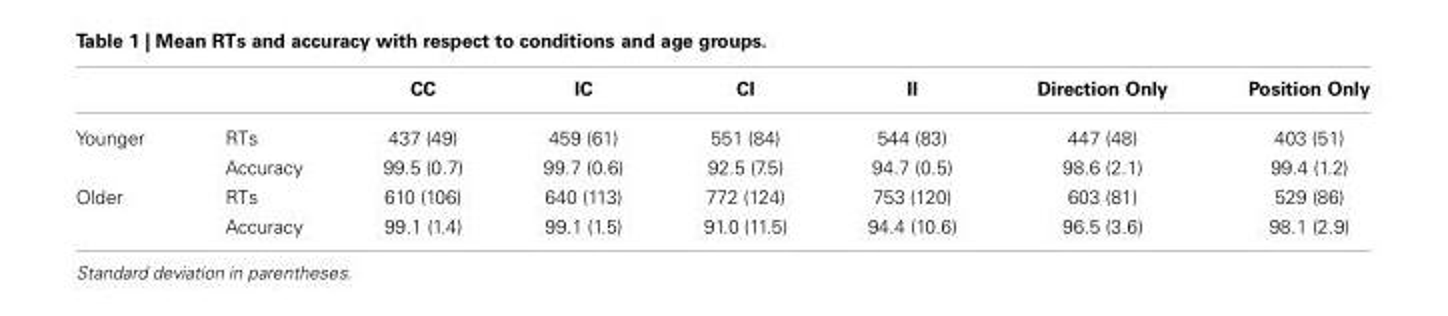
<table><thead><tr><td></td><td></td><td>CC</td><td>IC</td><td>CI</td><td>II</td><td>Direction Only</td><td>Position Only</td></tr></thead><tbody><tr><td rowspan="2">Younger</td><td>RTs</td><td>437 (49)</td><td>459 (61)</td><td>551 (84)</td><td>544 (83)</td><td>447 (48)</td><td>403 (51)</td></tr><tr><td>Accuracy</td><td>99.5 (0.7)</td><td>99.7 (0.6)</td><td>92.5 (7.5)</td><td>94.7 (0.5)</td><td>98.6 (2.1)</td><td>99.4 (1.2)</td></tr><tr><td rowspan="2">Older</td><td>RTs</td><td>610 (106)</td><td>640 (113)</td><td>772 (124)</td><td>753 (120)</td><td>603 (81)</td><td>529 (86)</td></tr><tr><td>Accuracy</td><td>99.1 (1.4)</td><td>99.1 (1.5)</td><td>91.0 (11.5)</td><td>94.4 (10.6)</td><td>96.5 (3.6)</td><td>98.1 (2.9)</td></tr></tbody></table>